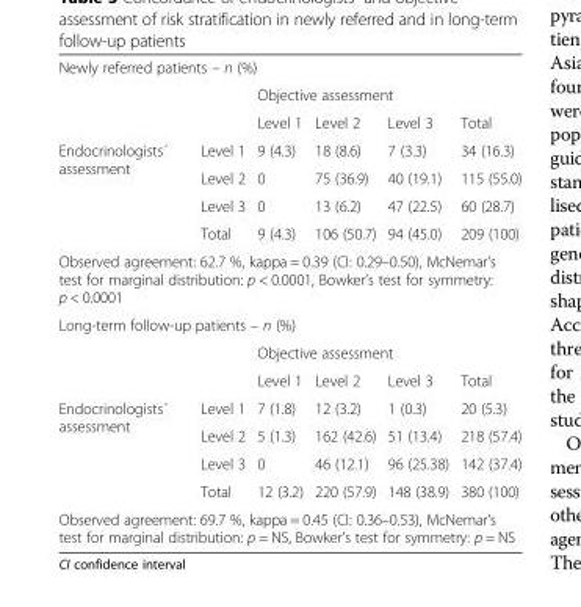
<table><tbody><tr><td colspan="6">Newly referred patients – n (%)</td></tr><tr><td></td><td></td><td colspan="4">Objective assessment</td></tr><tr><td></td><td></td><td>Level 1</td><td>Level 2</td><td>Level 3</td><td>Total</td></tr><tr><td rowspan="4">Endocrinologists´ assessment</td><td>Level 1</td><td>9 (4.3)</td><td>18 (8.6)</td><td>7 (3.3)</td><td>34 (16.3)</td></tr><tr><td>Level 2</td><td>0</td><td>75 (36.9)</td><td>40 (19.1)</td><td>115 (55.0)</td></tr><tr><td>Level 3</td><td>0</td><td>13 (6.2)</td><td>47 (22.5)</td><td>60 (28.7)</td></tr><tr><td>Total</td><td>9 (4.3)</td><td>106 (50.7)</td><td>94 (45.0)</td><td>209 (100)</td></tr><tr><td colspan="6">Observed agreement: 62.7 %, kappa = 0.39 (CI: 0.29–0.50), McNemar’s test for marginal distribution: p &lt; 0.0001, Bowker’s test for symmetry: p &lt; 0.0001</td></tr><tr><td colspan="6">Long-term follow-up patients – n (%)</td></tr><tr><td></td><td></td><td colspan="4">Objective assessment</td></tr><tr><td></td><td></td><td>Level 1</td><td>Level 2</td><td>Level 3</td><td>Total</td></tr><tr><td rowspan="4">Endocrinologists´ assessment</td><td>Level 1</td><td>7 (1.8)</td><td>12 (3.2)</td><td>1 (0.3)</td><td>20 (5.3)</td></tr><tr><td>Level 2</td><td>5 (1.3)</td><td>162 (42.6)</td><td>51 (13.4)</td><td>218 (57.4)</td></tr><tr><td>Level 3</td><td>0</td><td>46 (12.1)</td><td>96 (25.38)</td><td>142 (37.4)</td></tr><tr><td>Total</td><td>12 (3.2)</td><td>220 (57.9)</td><td>148 (38.9)</td><td>380 (100)</td></tr><tr><td colspan="6">Observed agreement: 69.7 %, kappa = 0.45 (CI: 0.36–0.53), McNemar’s test for marginal distribution: p = NS, Bowker’s test for symmetry: p = NS</td></tr></tbody></table>